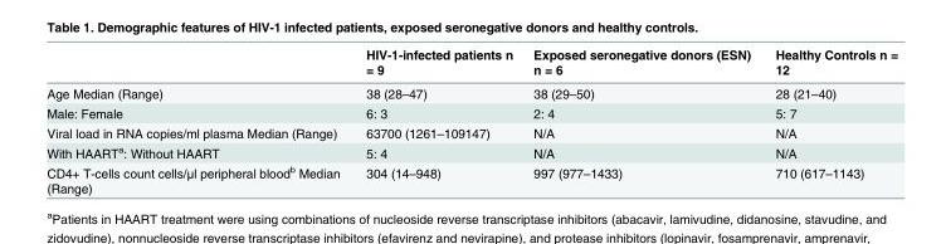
<table><thead><tr><td></td><td>HIV-1-infected patients n = 9</td><td>Exposed seronegative donors (ESN) n = 6</td><td>Healthy Controls n = 12</td></tr></thead><tbody><tr><td>Age Median (Range)</td><td>38 (28–47)</td><td>38 (29–50)</td><td>28 (21–40)</td></tr><tr><td>Male: Female</td><td>6: 3</td><td>2: 4</td><td>5: 7</td></tr><tr><td>Viral load in RNA copies/ml plasma Median (Range)</td><td>63700 (1261–109147)</td><td>N/A</td><td>N/A</td></tr><tr><td>With HAART<sup>a</sup>: Without HAART</td><td>5: 4</td><td>N/A</td><td>N/A</td></tr><tr><td>CD4+ T-cells count cells/μl peripheral blood<sup>b</sup> Median (Range)</td><td>304 (14–948)</td><td>997 (977–1433)</td><td>710 (617–1143)</td></tr></tbody></table>